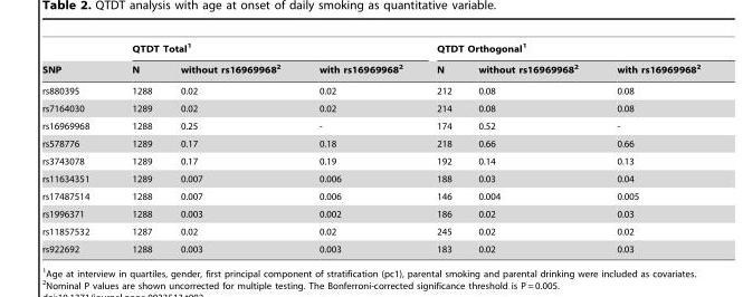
<table><thead><tr><td rowspan="2">SNP</td><td colspan="3">QTDT Total<sup>1</sup></td><td colspan="3">QTDT Orthogonal<sup>1</sup></td></tr><tr><td>N</td><td>without rs16969968<sup>2</sup></td><td>with rs16969968<sup>2</sup></td><td>N</td><td>without rs16969968<sup>2</sup></td><td>with rs16969968<sup>2</sup></td></tr></thead><tbody><tr><td>rs880395</td><td>1288</td><td>0.02</td><td>0.02</td><td>212</td><td>0.08</td><td>0.08</td></tr><tr><td>rs7164030</td><td>1289</td><td>0.02</td><td>0.02</td><td>214</td><td>0.08</td><td>0.08</td></tr><tr><td>rs16969968</td><td>1288</td><td>0.25</td><td>-</td><td>174</td><td>0.52</td><td>-</td></tr><tr><td>rs578776</td><td>1289</td><td>0.17</td><td>0.18</td><td>218</td><td>0.66</td><td>0.66</td></tr><tr><td>rs3743078</td><td>1289</td><td>0.17</td><td>0.19</td><td>192</td><td>0.14</td><td>0.13</td></tr><tr><td>rs11634351</td><td>1289</td><td>0.007</td><td>0.006</td><td>188</td><td>0.03</td><td>0.04</td></tr><tr><td>rs17487514</td><td>1288</td><td>0.007</td><td>0.006</td><td>146</td><td>0.004</td><td>0.005</td></tr><tr><td>rs1996371</td><td>1288</td><td>0.003</td><td>0.002</td><td>186</td><td>0.02</td><td>0.03</td></tr><tr><td>rs11857532</td><td>1287</td><td>0.02</td><td>0.02</td><td>245</td><td>0.02</td><td>0.02</td></tr><tr><td>rs922692</td><td>1288</td><td>0.003</td><td>0.003</td><td>183</td><td>0.02</td><td>0.03</td></tr></tbody></table>